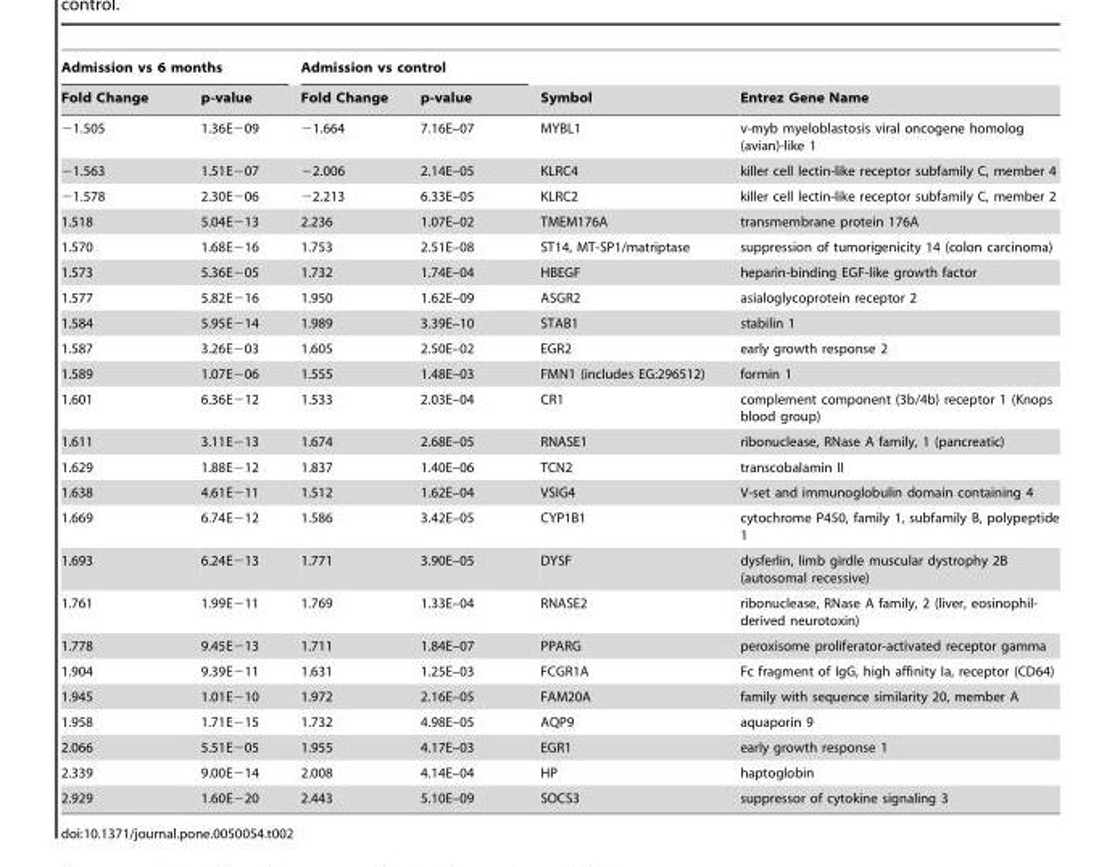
<table><thead><tr><td colspan="2">Admission vs 6 months</td><td colspan="2">Admission vs control</td><td rowspan="2">Symbol</td><td rowspan="2">Entrez Gene Name</td></tr><tr><td>Fold Change</td><td>p-value</td><td>Fold Change</td><td>p-value</td></tr></thead><tbody><tr><td>−1.505</td><td>1.36E−09</td><td>−1.664</td><td>7.16E–07</td><td>MYBL1</td><td>v-myb myeloblastosis viral oncogene homolog (avian)-like 1</td></tr><tr><td>−1.563</td><td>1.51E−07</td><td>−2.006</td><td>2.14E–05</td><td>KLRC4</td><td>killer cell lectin-like receptor subfamily C, member 4</td></tr><tr><td>−1.578</td><td>2.30E−06</td><td>−2.213</td><td>6.33E–05</td><td>KLRC2</td><td>killer cell lectin-like receptor subfamily C, member 2</td></tr><tr><td>1.518</td><td>5.04E−13</td><td>2.236</td><td>1.07E–02</td><td>TMEM176A</td><td>transmembrane protein 176A</td></tr><tr><td>1.570</td><td>1.68E−16</td><td>1.753</td><td>2.51E–08</td><td>ST14, MT-SP1/matriptase</td><td>suppression of tumorigenicity 14 (colon carcinoma)</td></tr><tr><td>1.573</td><td>5.36E−05</td><td>1.732</td><td>1.74E–04</td><td>HBEGF</td><td>heparin-binding EGF-like growth factor</td></tr><tr><td>1.577</td><td>5.82E−16</td><td>1.950</td><td>1.62E–09</td><td>ASGR2</td><td>asialoglycoprotein receptor 2</td></tr><tr><td>1.584</td><td>5.95E−14</td><td>1.989</td><td>3.39E–10</td><td>STAB1</td><td>stabilin 1</td></tr><tr><td>1.587</td><td>3.26E−03</td><td>1.605</td><td>2.50E–02</td><td>EGR2</td><td>early growth response 2</td></tr><tr><td>1.589</td><td>1.07E−06</td><td>1.555</td><td>1.48E–03</td><td>FMN1 (includes EG:296512)</td><td>formin 1</td></tr><tr><td>1.601</td><td>6.36E−12</td><td>1.533</td><td>2.03E–04</td><td>CR1</td><td>complement component (3b/4b) receptor 1 (Knops blood group)</td></tr><tr><td>1.611</td><td>3.11E−13</td><td>1.674</td><td>2.68E–05</td><td>RNASE1</td><td>ribonuclease, RNase A family, 1 (pancreatic)</td></tr><tr><td>1.629</td><td>1.88E−12</td><td>1.837</td><td>1.40E–06</td><td>TCN2</td><td>transcobalamin II</td></tr><tr><td>1.638</td><td>4.61E−11</td><td>1.512</td><td>1.62E–04</td><td>VSIG4</td><td>V-set and immunoglobulin domain containing 4</td></tr><tr><td>1.669</td><td>6.74E−12</td><td>1.586</td><td>3.42E–05</td><td>CYP1B1</td><td>cytochrome P450, family 1, subfamily B, polypeptide 1</td></tr><tr><td>1.693</td><td>6.24E−13</td><td>1.771</td><td>3.90E–05</td><td>DYSF</td><td>dysferlin, limb girdle muscular dystrophy 2B (autosomal recessive)</td></tr><tr><td>1.761</td><td>1.99E−11</td><td>1.769</td><td>1.33E–04</td><td>RNASE2</td><td>ribonuclease, RNase A family, 2 (liver, eosinophil- derived neurotoxin)</td></tr><tr><td>1.778</td><td>9.45E−13</td><td>1.711</td><td>1.84E–07</td><td>PPARG</td><td>peroxisome proliferator-activated receptor gamma</td></tr><tr><td>1.904</td><td>9.39E−11</td><td>1.631</td><td>1.25E–03</td><td>FCGR1A</td><td>Fc fragment of IgG, high affinity Ia, receptor (CD64)</td></tr><tr><td>1.945</td><td>1.01E−10</td><td>1.972</td><td>2.16E–05</td><td>FAM20A</td><td>family with sequence similarity 20, member A</td></tr><tr><td>1.958</td><td>1.71E−15</td><td>1.732</td><td>4.98E–05</td><td>AQP9</td><td>aquaporin 9</td></tr><tr><td>2.066</td><td>5.51E−05</td><td>1.955</td><td>4.17E–03</td><td>EGR1</td><td>early growth response 1</td></tr><tr><td>2.339</td><td>9.00E−14</td><td>2.008</td><td>4.14E–04</td><td>HP</td><td>haptoglobin</td></tr><tr><td>2.929</td><td>1.60E−20</td><td>2.443</td><td>5.10E–09</td><td>SOCS3</td><td>suppressor of cytokine signaling 3</td></tr></tbody></table>